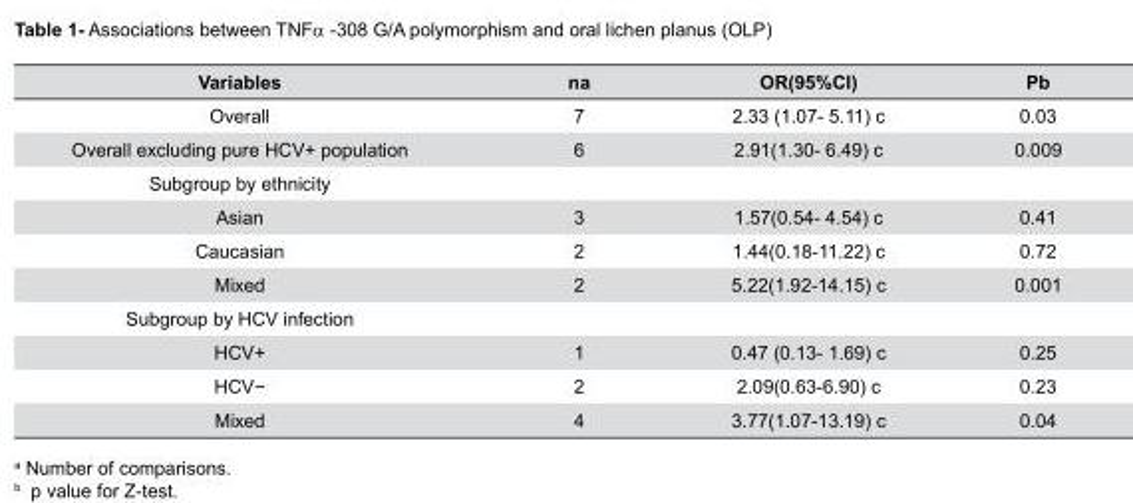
<table><thead><tr><td>Variables</td><td>n<sup>a</sup></td><td>OR(95%CI)</td><td>P<sup>b</sup></td></tr></thead><tbody><tr><td>Overall</td><td>7</td><td>2.33 (1.07- 5.11) c</td><td>0.03</td></tr><tr><td>Overall excluding pure HCV+ population</td><td>6</td><td>2.91(1.30- 6.49) c</td><td>0.009</td></tr><tr><td colspan="4">Subgroup by ethnicity</td></tr><tr><td>Asian</td><td>3</td><td>1.57(0.54- 4.54) c</td><td>0.41</td></tr><tr><td>Caucasian</td><td>2</td><td>1.44(0.18-11.22) c</td><td>0.72</td></tr><tr><td>Mixed</td><td>2</td><td>5.22(1.92-14.15) c</td><td>0.001</td></tr><tr><td colspan="4">Subgroup by HCV infection</td></tr><tr><td>HCV+</td><td>1</td><td>0.47 (0.13- 1.69) c</td><td>0.25</td></tr><tr><td>HCV−</td><td>2</td><td>2.09(0.63-6.90) c</td><td>0.23</td></tr><tr><td>Mixed</td><td>4</td><td>3.77(1.07-13.19) c</td><td>0.04</td></tr></tbody></table>